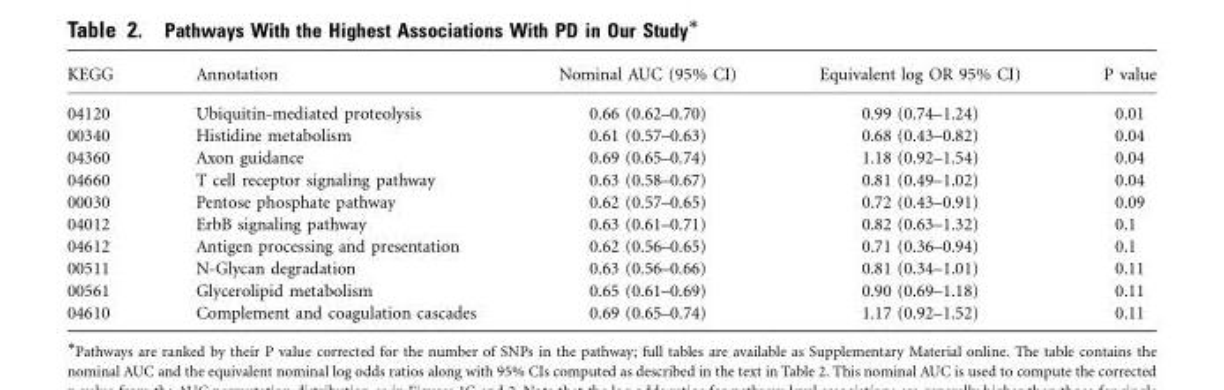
<table><thead><tr><td>KEGG</td><td>Annotation</td><td>Nominal AUC (95% CI)</td><td>Equivalent log OR 95% CI)</td><td>P value</td></tr></thead><tbody><tr><td>04120</td><td>Ubiquitin-mediated proteolysis</td><td>0.66 (0.62–0.70)</td><td>0.99 (0.74–1.24)</td><td>0.01</td></tr><tr><td>00340</td><td>Histidine metabolism</td><td>0.61 (0.57–0.63)</td><td>0.68 (0.43–0.82)</td><td>0.04</td></tr><tr><td>04360</td><td>Axon guidance</td><td>0.69 (0.65–0.74)</td><td>1.18 (0.92–1.54)</td><td>0.04</td></tr><tr><td>04660</td><td>T cell receptor signaling pathway</td><td>0.63 (0.58–0.67)</td><td>0.81 (0.49–1.02)</td><td>0.04</td></tr><tr><td>00030</td><td>Pentose phosphate pathway</td><td>0.62 (0.57–0.65)</td><td>0.72 (0.43–0.91)</td><td>0.09</td></tr><tr><td>04012</td><td>ErbB signaling pathway</td><td>0.63 (0.61–0.71)</td><td>0.82 (0.63–1.32)</td><td>0.1</td></tr><tr><td>04612</td><td>Antigen processing and presentation</td><td>0.62 (0.56–0.65)</td><td>0.71 (0.36–0.94)</td><td>0.1</td></tr><tr><td>00511</td><td>N-Glycan degradation</td><td>0.63 (0.56–0.66)</td><td>0.81 (0.34–1.01)</td><td>0.11</td></tr><tr><td>00561</td><td>Glycerolipid metabolism</td><td>0.65 (0.61–0.69)</td><td>0.90 (0.69–1.18)</td><td>0.11</td></tr><tr><td>04610</td><td>Complement and coagulation cascades</td><td>0.69 (0.65–0.74)</td><td>1.17 (0.92–1.52)</td><td>0.11</td></tr></tbody></table>